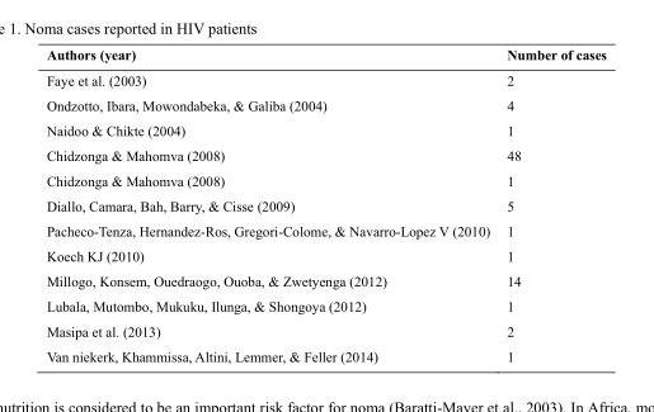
<table><thead><tr><td>Authors (year)</td><td>Number of cases</td></tr></thead><tbody><tr><td>Faye et al. (2003)</td><td>2</td></tr><tr><td>Ondzotto, Ibara, Mowondabeka, &amp; Galiba (2004)</td><td>4</td></tr><tr><td>Naidoo &amp; Chikte (2004)</td><td>1</td></tr><tr><td>Chidzonga &amp; Mahomva (2008)</td><td>48</td></tr><tr><td>Chidzonga &amp; Mahomva (2008)</td><td>1</td></tr><tr><td>Diallo, Camara, Bah, Barry, &amp; Cisse (2009)</td><td>5</td></tr><tr><td>Pacheco-Tenza, Hernandez-Ros, Gregori-Colome, &amp; Navarro-Lopez V (2010)</td><td>1</td></tr><tr><td>Koech KJ (2010)</td><td>1</td></tr><tr><td>Millogo, Konsem, Ouedraogo, Ouoba, &amp; Zwetyenga (2012)</td><td>14</td></tr><tr><td>Lubala, Mutombo, Mukuku, Ilunga, &amp; Shongoya (2012)</td><td>1</td></tr><tr><td>Masipa et al. (2013)</td><td>2</td></tr><tr><td>Van niekerk, Khammissa, Altini, Lemmer, &amp; Feller (2014)</td><td>1</td></tr></tbody></table>